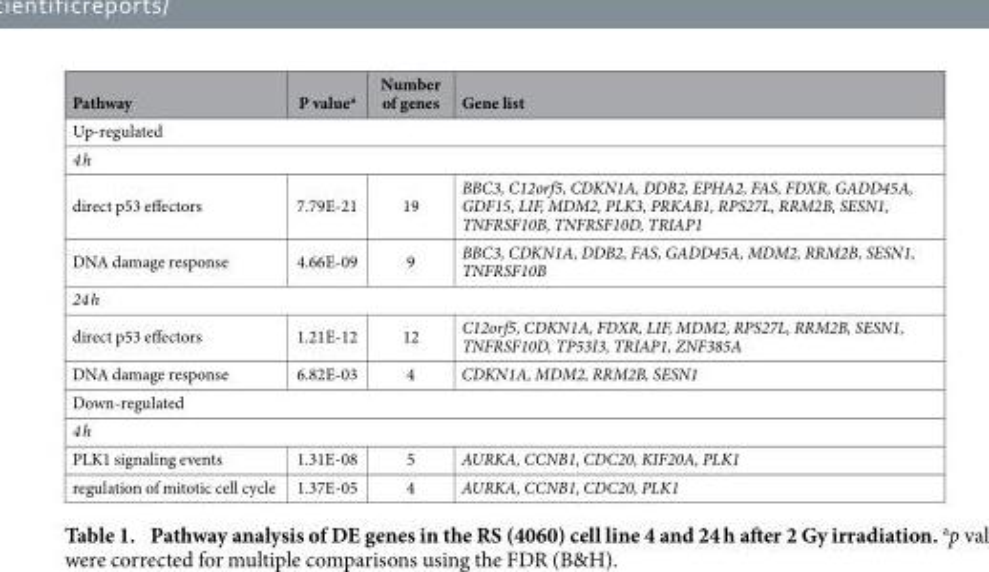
<table><thead><tr><td>Pathway</td><td>P value<sup>a</sup></td><td>Number of genes</td><td>Gene list</td></tr></thead><tbody><tr><td colspan="4">Up-regulated</td></tr><tr><td colspan="4">4 h</td></tr><tr><td>direct p53 effectors</td><td>7.79E-21</td><td>19</td><td>BBC3, C12orf5, CDKN1A, DDB2, EPHA2, FAS, FDXR, GADD45A, GDF15, LIF, MDM2, PLK3, PRKAB1, RPS27L, RRM2B, SESN1, TNFRSF10B, TNFRSF10D, TRIAP1</td></tr><tr><td>DNA damage response</td><td>4.66E-09</td><td>9</td><td>BBC3, CDKN1A, DDB2, FAS, GADD45A, MDM2, RRM2B, SESN1, TNFRSF10B</td></tr><tr><td colspan="4">24 h</td></tr><tr><td>direct p53 effectors</td><td>1.21E-12</td><td>12</td><td>C12orf5, CDKN1A, FDXR, LIF, MDM2, RPS27L, RRM2B, SESN1, TNFRSF10D, TP53I3, TRIAP1, ZNF385A</td></tr><tr><td>DNA damage response</td><td>6.82E-03</td><td>4</td><td>CDKN1A, MDM2, RRM2B, SESN1</td></tr><tr><td colspan="4">Down-regulated</td></tr><tr><td colspan="4">4 h</td></tr><tr><td>PLK1 signaling events</td><td>1.31E-08</td><td>5</td><td>AURKA, CCNB1, CDC20, KIF20A, PLK1</td></tr><tr><td>regulation of mitotic cell cycle</td><td>1.37E-05</td><td>4</td><td>AURKA, CCNB1, CDC20, PLK1</td></tr></tbody></table>